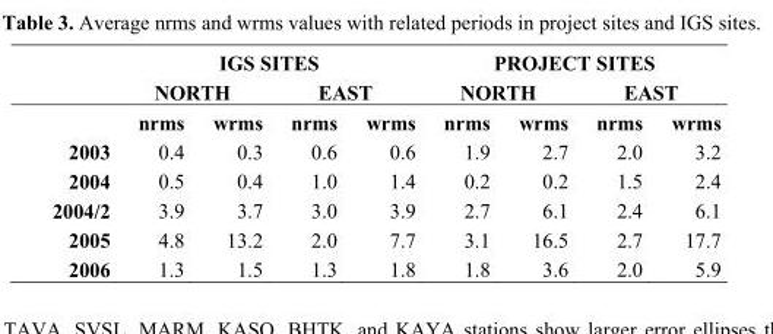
<table><thead><tr><td rowspan="3"></td><td colspan="4">IGS SITES</td><td colspan="4">PROJECT SITES</td></tr><tr><td colspan="2">NORTH</td><td colspan="2">EAST</td><td colspan="2">NORTH</td><td colspan="2">EAST</td></tr><tr><td>nrms</td><td>wrms</td><td>nrms</td><td>wrms</td><td>nrms</td><td>wrms</td><td>nrms</td><td>wrms</td></tr></thead><tbody><tr><td>2003</td><td>0.4</td><td>0.3</td><td>0.6</td><td>0.6</td><td>1.9</td><td>2.7</td><td>2.0</td><td>3.2</td></tr><tr><td>2004</td><td>0.5</td><td>0.4</td><td>1.0</td><td>1.4</td><td>0.2</td><td>0.2</td><td>1.5</td><td>2.4</td></tr><tr><td>2004/2</td><td>3.9</td><td>3.7</td><td>3.0</td><td>3.9</td><td>2.7</td><td>6.1</td><td>2.4</td><td>6.1</td></tr><tr><td>2005</td><td>4.8</td><td>13.2</td><td>2.0</td><td>7.7</td><td>3.1</td><td>16.5</td><td>2.7</td><td>17.7</td></tr><tr><td>2006</td><td>1.3</td><td>1.5</td><td>1.3</td><td>1.8</td><td>1.8</td><td>3.6</td><td>2.0</td><td>5.9</td></tr></tbody></table>